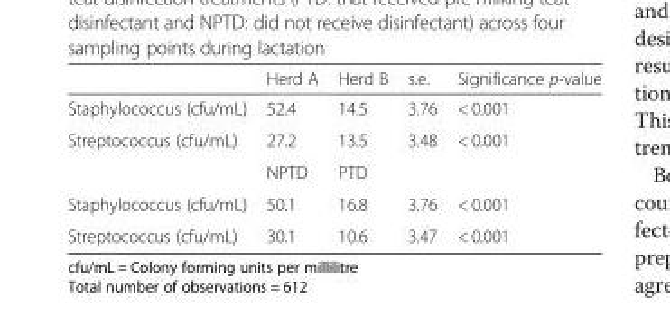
<table><thead><tr><td></td><td>Herd A</td><td>Herd B</td><td>s.e.</td><td>Significance p-value</td></tr></thead><tbody><tr><td>Staphylococcus (cfu/mL)</td><td>52.4</td><td>14.5</td><td>3.76</td><td>&lt; 0.001</td></tr><tr><td rowspan="2">Streptococcus (cfu/mL)</td><td>27.2</td><td>13.5</td><td>3.48</td><td>&lt; 0.001</td></tr><tr><td>NPTD</td><td>PTD</td><td></td><td></td></tr><tr><td>Staphylococcus (cfu/mL)</td><td>50.1</td><td>16.8</td><td>3.76</td><td>&lt; 0.001</td></tr><tr><td>Streptococcus (cfu/mL)</td><td>30.1</td><td>10.6</td><td>3.47</td><td>&lt; 0.001</td></tr></tbody></table>